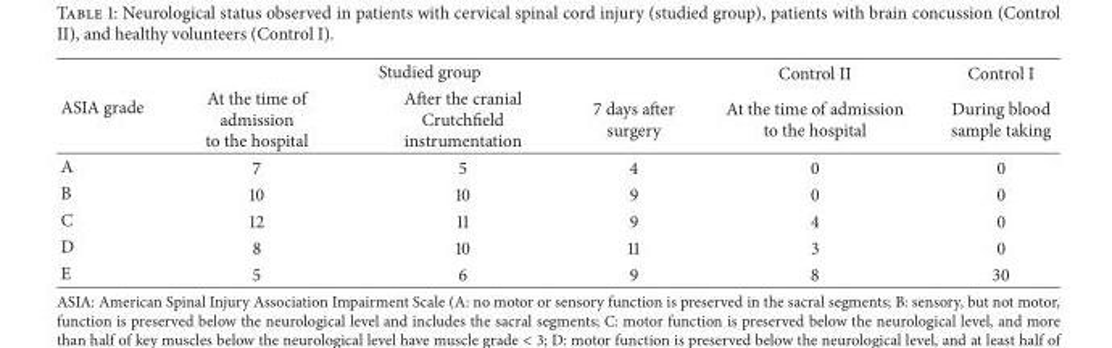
<table><thead><tr><td rowspan="2">ASIA grade</td><td colspan="3">Studied group</td><td rowspan="2">Control II At the time of admission to the hospital</td><td rowspan="2">Control I During blood sample taking</td></tr><tr><td>At the time of admission to the hospital</td><td>After the cranial Crutchfield instrumentation</td><td>7 days after surgery</td></tr></thead><tbody><tr><td>A</td><td>7</td><td>5</td><td>4</td><td>0</td><td>0</td></tr><tr><td>B</td><td>10</td><td>10</td><td>9</td><td>0</td><td>0</td></tr><tr><td>C</td><td>12</td><td>11</td><td>9</td><td>4</td><td>0</td></tr><tr><td>D</td><td>8</td><td>10</td><td>11</td><td>3</td><td>0</td></tr><tr><td>E</td><td>5</td><td>6</td><td>9</td><td>8</td><td>30</td></tr></tbody></table>